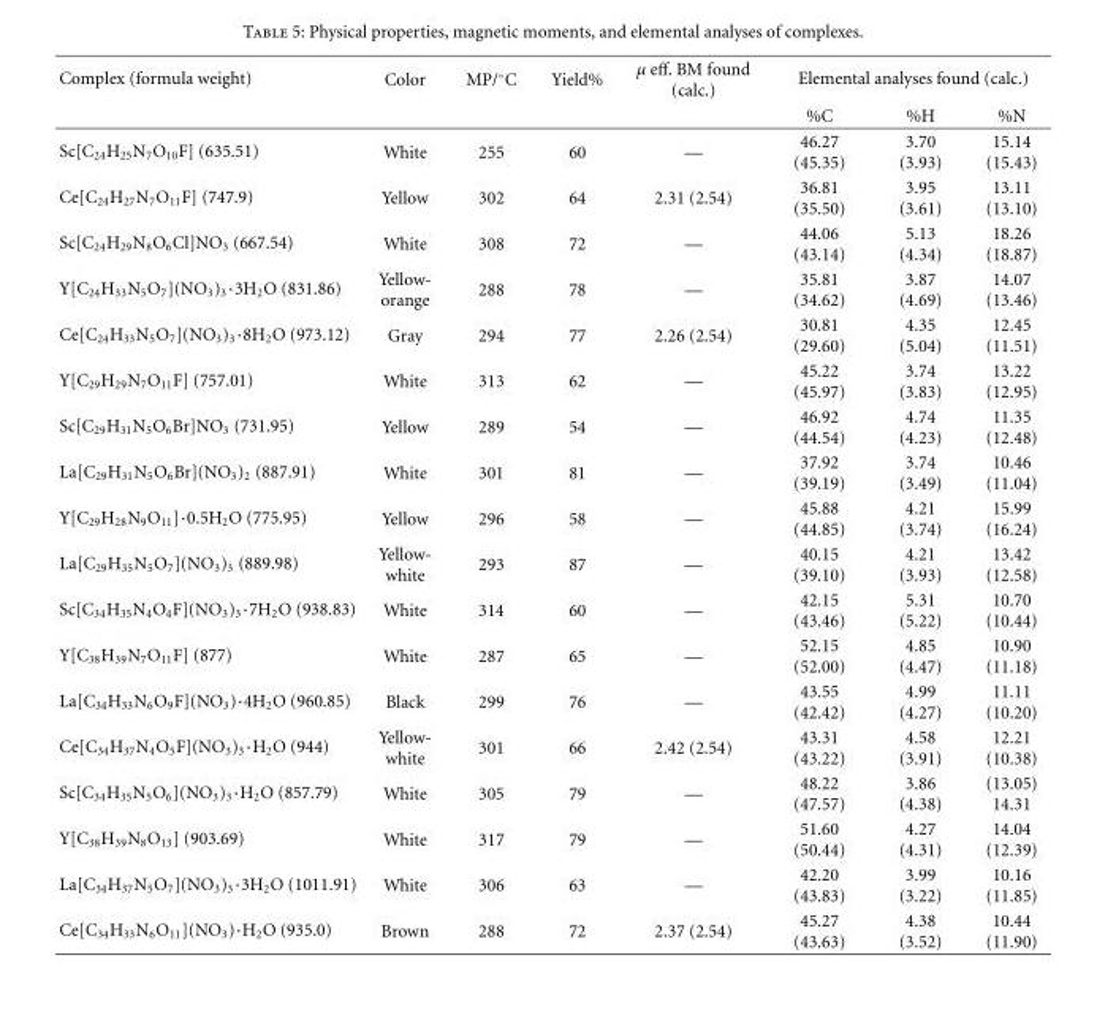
<table><thead><tr><td rowspan="2">Complex (formula weight)</td><td rowspan="2">Color</td><td rowspan="2">MP/◦C</td><td rowspan="2">Yield%</td><td rowspan="2">μ eff. BM found (calc.)</td><td colspan="3">Elemental analyses found (calc.)</td></tr><tr><td>%C</td><td>%H</td><td>%N</td></tr></thead><tbody><tr><td>Sc[C<sub>24</sub>H<sub>25</sub>N<sub>7</sub>O<sub>10</sub>F] (635.51)</td><td>White</td><td>255</td><td>60</td><td>—</td><td>46.27 (45.35)</td><td>3.70 (3.93)</td><td>15.14 (15.43)</td></tr><tr><td>Ce[C<sub>24</sub>H<sub>27</sub>N<sub>7</sub>O<sub>11</sub>F] (747.9)</td><td>Yellow</td><td>302</td><td>64</td><td>2.31 (2.54)</td><td>36.81 (35.50)</td><td>3.95 (3.61)</td><td>13.11 (13.10)</td></tr><tr><td>Sc[C<sub>24</sub>H<sub>29</sub>N<sub>8</sub>O<sub>6</sub>Cl]NO<sub>3</sub> (667.54)</td><td>White</td><td>308</td><td>72</td><td>—</td><td>44.06 (43.14)</td><td>5.13 (4.34)</td><td>18.26 (18.87)</td></tr><tr><td>Y[C<sub>24</sub>H<sub>33</sub>N<sub>5</sub>O<sub>7</sub>](NO<sub>3</sub>)<sub>3</sub>·3H<sub>2</sub>O (831.86)</td><td>Yellow- orange</td><td>288</td><td>78</td><td>—</td><td>35.81 (34.62)</td><td>3.87 (4.69)</td><td>14.07 (13.46)</td></tr><tr><td>Ce[C<sub>24</sub>H<sub>33</sub>N<sub>5</sub>O<sub>7</sub>](NO<sub>3</sub>)<sub>3</sub>·8H<sub>2</sub>O (973.12)</td><td>Gray</td><td>294</td><td>77</td><td>2.26 (2.54)</td><td>30.81 (29.60)</td><td>4.35 (5.04)</td><td>12.45 (11.51)</td></tr><tr><td>Y[C<sub>29</sub>H<sub>29</sub>N<sub>7</sub>O<sub>11</sub>F] (757.01)</td><td>White</td><td>313</td><td>62</td><td>—</td><td>45.22 (45.97)</td><td>3.74 (3.83)</td><td>13.22 (12.95)</td></tr><tr><td>Sc[C<sub>29</sub>H<sub>31</sub>N<sub>5</sub>O<sub>6</sub>Br]NO<sub>3</sub> (731.95)</td><td>Yellow</td><td>289</td><td>54</td><td>—</td><td>46.92 (44.54)</td><td>4.74 (4.23)</td><td>11.35 (12.48)</td></tr><tr><td>La[C<sub>29</sub>H<sub>31</sub>N<sub>5</sub>O<sub>6</sub>Br](NO<sub>3</sub>)<sub>2</sub> (887.91)</td><td>White</td><td>301</td><td>81</td><td>—</td><td>37.92 (39.19)</td><td>3.74 (3.49)</td><td>10.46 (11.04)</td></tr><tr><td>Y[C<sub>29</sub>H<sub>28</sub>N<sub>9</sub>O<sub>11</sub>]·0.5H<sub>2</sub>O (775.95)</td><td>Yellow</td><td>296</td><td>58</td><td>—</td><td>45.88 (44.85)</td><td>4.21 (3.74)</td><td>15.99 (16.24)</td></tr><tr><td>La[C<sub>29</sub>H<sub>35</sub>N<sub>5</sub>O<sub>7</sub>](NO<sub>3</sub>)<sub>3</sub> (889.98)</td><td>Yellow- white</td><td>293</td><td>87</td><td>—</td><td>40.15 (39.10)</td><td>4.21 (3.93)</td><td>13.42 (12.58)</td></tr><tr><td>Sc[C<sub>34</sub>H<sub>35</sub>N<sub>4</sub>O<sub>4</sub>F](NO<sub>3</sub>)<sub>3</sub>·7H<sub>2</sub>O (938.83)</td><td>White</td><td>314</td><td>60</td><td>—</td><td>42.15 (43.46)</td><td>5.31 (5.22)</td><td>10.70 (10.44)</td></tr><tr><td>Y[C<sub>38</sub>H<sub>39</sub>N<sub>7</sub>O<sub>11</sub>F] (877)</td><td>White</td><td>287</td><td>65</td><td>—</td><td>52.15 (52.00)</td><td>4.85 (4.47)</td><td>10.90 (11.18)</td></tr><tr><td>La[C<sub>34</sub>H<sub>33</sub>N<sub>6</sub>O<sub>9</sub>F](NO<sub>3</sub>)·4H<sub>2</sub>O (960.85)</td><td>Black</td><td>299</td><td>76</td><td>—</td><td>43.55 (42.42)</td><td>4.99 (4.27)</td><td>11.11 (10.20)</td></tr><tr><td>Ce[C<sub>34</sub>H<sub>37</sub>N<sub>4</sub>O<sub>5</sub>F](NO<sub>3</sub>)<sub>3</sub>·H<sub>2</sub>O (944)</td><td>Yellow- white</td><td>301</td><td>66</td><td>2.42 (2.54)</td><td>43.31 (43.22)</td><td>4.58 (3.91)</td><td>12.21 (10.38)</td></tr><tr><td>Sc[C<sub>34</sub>H<sub>35</sub>N<sub>5</sub>O<sub>6</sub>](NO<sub>3</sub>)<sub>3</sub>·H<sub>2</sub>O (857.79)</td><td>White</td><td>305</td><td>79</td><td>—</td><td>48.22 (47.57)</td><td>3.86 (4.38)</td><td>(13.05) 14.31</td></tr><tr><td>Y[C<sub>38</sub>H<sub>39</sub>N<sub>8</sub>O<sub>13</sub>] (903.69)</td><td>White</td><td>317</td><td>79</td><td>—</td><td>51.60 (50.44)</td><td>4.27 (4.31)</td><td>14.04 (12.39)</td></tr><tr><td>La[C<sub>34</sub>H<sub>37</sub>N<sub>5</sub>O<sub>7</sub>](NO<sub>3</sub>)<sub>3</sub>·3H<sub>2</sub>O (1011.91)</td><td>White</td><td>306</td><td>63</td><td>—</td><td>42.20 (43.83)</td><td>3.99 (3.22)</td><td>10.16 (11.85)</td></tr><tr><td>Ce[C<sub>34</sub>H<sub>33</sub>N<sub>6</sub>O<sub>11</sub>](NO<sub>3</sub>)·H<sub>2</sub>O (935.0)</td><td>Brown</td><td>288</td><td>72</td><td>2.37 (2.54)</td><td>45.27 (43.63)</td><td>4.38 (3.52)</td><td>10.44 (11.90)</td></tr></tbody></table>